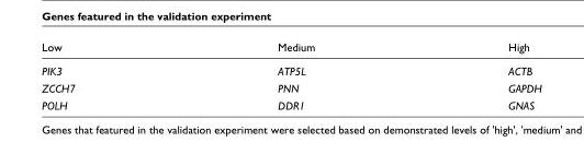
<table><thead><tr><td>Low</td><td>Medium</td><td>High</td></tr></thead><tbody><tr><td>PIK3</td><td>ATP5L</td><td>ACTB</td></tr><tr><td>ZCCH7</td><td>PNN</td><td>GAPDH</td></tr><tr><td>POLH</td><td>DDR1</td><td>GNAS</td></tr></tbody></table>